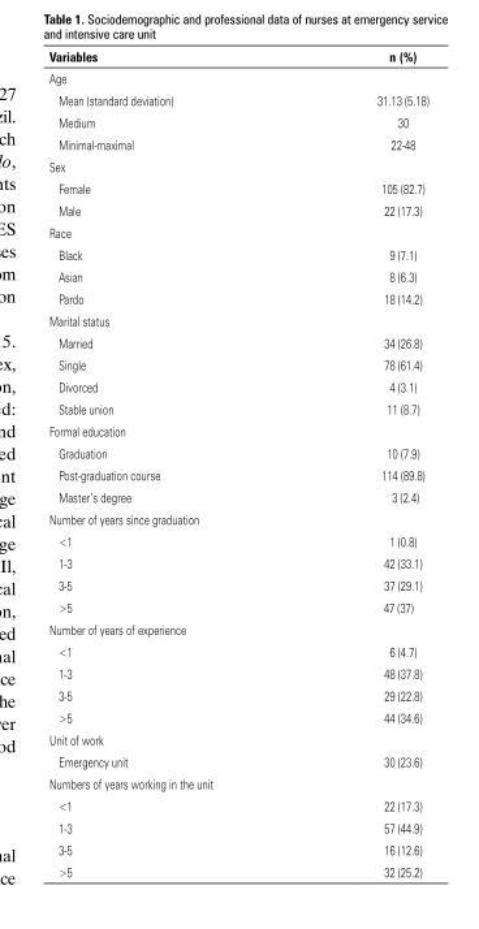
<table><thead><tr><td>Variables</td><td>n (%)</td></tr></thead><tbody><tr><td colspan="2">Age</td></tr><tr><td>Mean (standard deviation)</td><td>31.13 (5.18)</td></tr><tr><td>Medium</td><td>30</td></tr><tr><td>Minimal-maximal</td><td>22-48</td></tr><tr><td colspan="2">Sex</td></tr><tr><td>Female</td><td>105 (82.7)</td></tr><tr><td>Male</td><td>22 (17.3)</td></tr><tr><td colspan="2">Race</td></tr><tr><td>Black</td><td>9 (7.1)</td></tr><tr><td>Asian</td><td>8 (6.3)</td></tr><tr><td>Pardo</td><td>18 (14.2)</td></tr><tr><td colspan="2">Marital status</td></tr><tr><td>Married</td><td>34 (26.8)</td></tr><tr><td>Single</td><td>78 (61.4)</td></tr><tr><td>Divorced</td><td>4 (3.1)</td></tr><tr><td>Stable union</td><td>11 (8.7)</td></tr><tr><td colspan="2">Formal education</td></tr><tr><td>Graduation</td><td>10 (7.9)</td></tr><tr><td>Post-graduation course</td><td>114 (89.8)</td></tr><tr><td>Master’s degree</td><td>3 (2.4)</td></tr><tr><td colspan="2">Number of years since graduation</td></tr><tr><td>&lt;1</td><td>1 (0.8)</td></tr><tr><td>1-3</td><td>42 (33.1)</td></tr><tr><td>3-5</td><td>37 (29.1)</td></tr><tr><td>&gt;5</td><td>47 (37)</td></tr><tr><td colspan="2">Number of years of experience</td></tr><tr><td>&lt;1</td><td>6 (4.7)</td></tr><tr><td>1-3</td><td>48 (37.8)</td></tr><tr><td>3-5</td><td>29 (22.8)</td></tr><tr><td>&gt;5</td><td>44 (34.6)</td></tr><tr><td colspan="2">Unit of work</td></tr><tr><td>Emergency unit</td><td>30 (23.6)</td></tr><tr><td colspan="2">Numbers of years working in the unit</td></tr><tr><td>&lt;1</td><td>22 (17.3)</td></tr><tr><td>1-3</td><td>57 (44.9)</td></tr><tr><td>3-5</td><td>16 (12.6)</td></tr><tr><td>&gt;5</td><td>32 (25.2)</td></tr></tbody></table>